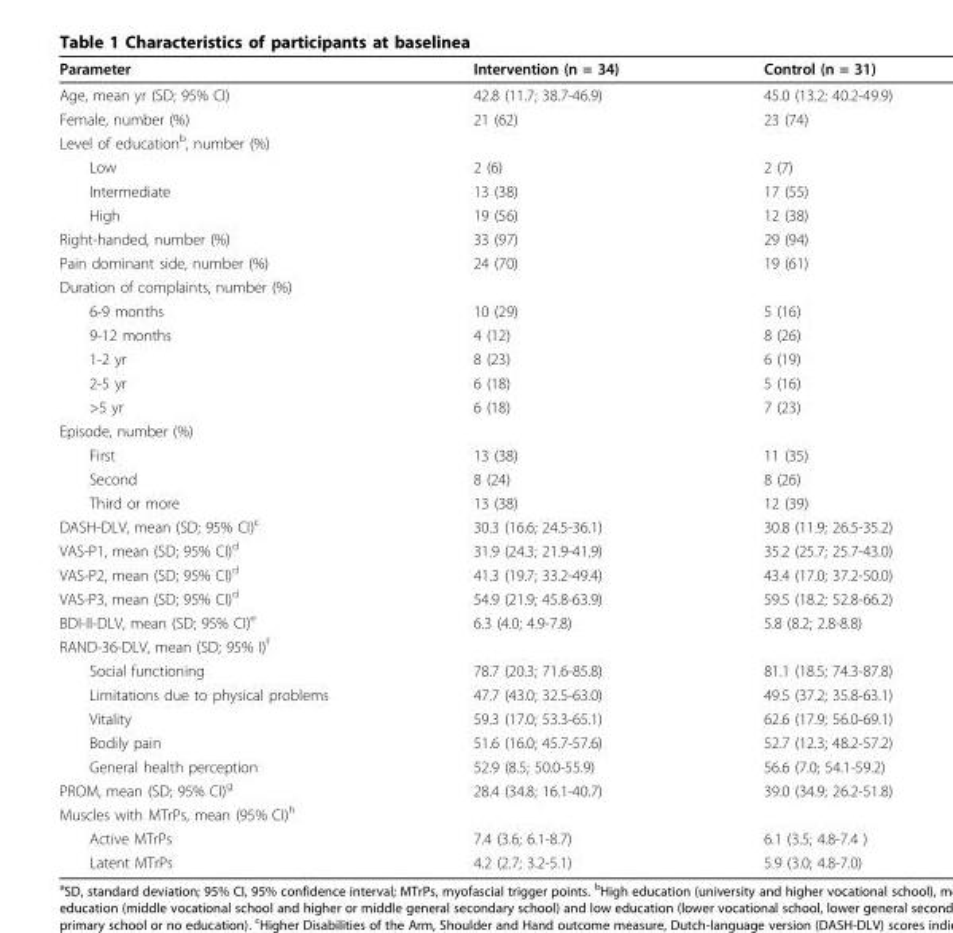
<table><thead><tr><td>Parameter</td><td>Intervention (n = 34)</td><td>Control (n = 31)</td></tr></thead><tbody><tr><td>Age, mean yr (SD; 95% CI)</td><td>42.8 (11.7; 38.7-46.9)</td><td>45.0 (13.2; 40.2-49.9)</td></tr><tr><td>Female, number (%)</td><td>21 (62)</td><td>23 (74)</td></tr><tr><td colspan="3">Level of education<sup>b</sup>, number (%)</td></tr><tr><td>Low</td><td>2 (6)</td><td>2 (7)</td></tr><tr><td>Intermediate</td><td>13 (38)</td><td>17 (55)</td></tr><tr><td>High</td><td>19 (56)</td><td>12 (38)</td></tr><tr><td>Right-handed, number (%)</td><td>33 (97)</td><td>29 (94)</td></tr><tr><td>Pain dominant side, number (%)</td><td>24 (70)</td><td>19 (61)</td></tr><tr><td colspan="3">Duration of complaints, number (%)</td></tr><tr><td>6-9 months</td><td>10 (29)</td><td>5 (16)</td></tr><tr><td>9-12 months</td><td>4 (12)</td><td>8 (26)</td></tr><tr><td>1-2 yr</td><td>8 (23)</td><td>6 (19)</td></tr><tr><td>2-5 yr</td><td>6 (18)</td><td>5 (16)</td></tr><tr><td>&gt;5 yr</td><td>6 (18)</td><td>7 (23)</td></tr><tr><td colspan="3">Episode, number (%)</td></tr><tr><td>First</td><td>13 (38)</td><td>11 (35)</td></tr><tr><td>Second</td><td>8 (24)</td><td>8 (26)</td></tr><tr><td>Third or more</td><td>13 (38)</td><td>12 (39)</td></tr><tr><td>DASH-DLV, mean (SD; 95% CI)<sup>c</sup></td><td>30.3 (16.6; 24.5-36.1)</td><td>30.8 (11.9; 26.5-35.2)</td></tr><tr><td>VAS-P1, mean (SD; 95% CI)<sup>d</sup></td><td>31.9 (24.3; 21.9-41.9)</td><td>35.2 (25.7; 25.7-43.0)</td></tr><tr><td>VAS-P2, mean (SD; 95% CI)<sup>d</sup></td><td>41.3 (19.7; 33.2-49.4)</td><td>43.4 (17.0; 37.2-50.0)</td></tr><tr><td>VAS-P3, mean (SD; 95% CI)<sup>d</sup></td><td>54.9 (21.9; 45.8-63.9)</td><td>59.5 (18.2; 52.8-66.2)</td></tr><tr><td>BDI-II-DLV, mean (SD; 95% CI)<sup>e</sup></td><td>6.3 (4.0; 4.9-7.8)</td><td>5.8 (8.2; 2.8-8.8)</td></tr><tr><td colspan="3">RAND-36-DLV, mean (SD; 95% I)<sup>f</sup></td></tr><tr><td>Social functioning</td><td>78.7 (20.3; 71.6-85.8)</td><td>81.1 (18.5; 74.3-87.8)</td></tr><tr><td>Limitations due to physical problems</td><td>47.7 (43.0; 32.5-63.0)</td><td>49.5 (37.2; 35.8-63.1)</td></tr><tr><td>Vitality</td><td>59.3 (17.0; 53.3-65.1)</td><td>62.6 (17.9; 56.0-69.1)</td></tr><tr><td>Bodily pain</td><td>51.6 (16.0; 45.7-57.6)</td><td>52.7 (12.3; 48.2-57.2)</td></tr><tr><td>General health perception</td><td>52.9 (8.5; 50.0-55.9)</td><td>56.6 (7.0; 54.1-59.2)</td></tr><tr><td>PROM, mean (SD; 95% CI)<sup>g</sup></td><td>28.4 (34.8; 16.1-40.7)</td><td>39.0 (34.9; 26.2-51.8)</td></tr><tr><td colspan="3">Muscles with MTrPs, mean (95% CI)<sup>h</sup></td></tr><tr><td>Active MTrPs</td><td>7.4 (3.6; 6.1-8.7)</td><td>6.1 (3.5; 4.8-7.4 )</td></tr><tr><td>Latent MTrPs</td><td>4.2 (2.7; 3.2-5.1)</td><td>5.9 (3.0; 4.8-7.0)</td></tr></tbody></table>